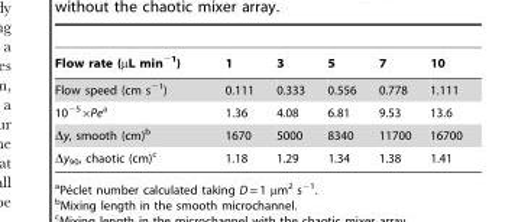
<table><thead><tr><td>Flow rate (µL min<sup>−1</sup>)</td><td>1</td><td>3</td><td>5</td><td>7</td><td>10</td></tr></thead><tbody><tr><td>Flow speed (cm s<sup>−1</sup>)</td><td>0.111</td><td>0.333</td><td>0.556</td><td>0.778</td><td>1.111</td></tr><tr><td>10<sup>−5</sup>×Pea</td><td>1.36</td><td>4.08</td><td>6.81</td><td>9.53</td><td>13.6</td></tr><tr><td>Δy, smooth (cm)<sup>b</sup></td><td>1670</td><td>5000</td><td>8340</td><td>11700</td><td>16700</td></tr><tr><td>Δy<sub>90</sub>, chaotic (cm)<sup>c</sup></td><td>1.18</td><td>1.29</td><td>1.34</td><td>1.38</td><td>1.41</td></tr></tbody></table>